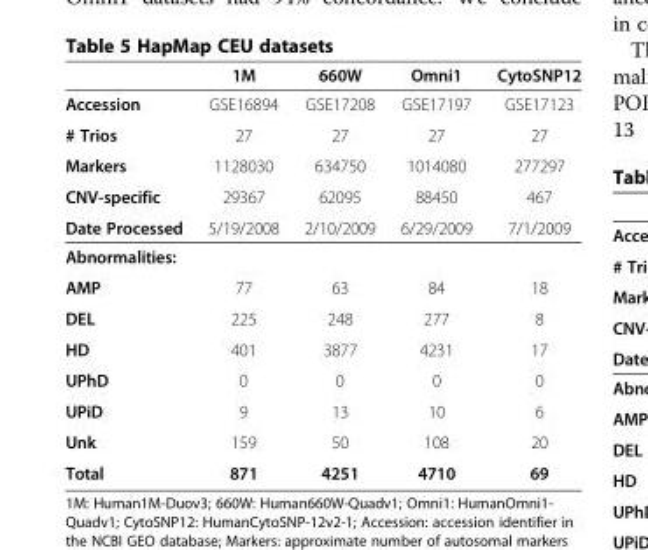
<table><thead><tr><td></td><td>1M</td><td>660W</td><td>Omni1</td><td>CytoSNP12</td></tr></thead><tbody><tr><td>Accession</td><td>GSE16894</td><td>GSE17208</td><td>GSE17197</td><td>GSE17123</td></tr><tr><td># Trios</td><td>27</td><td>27</td><td>27</td><td>27</td></tr><tr><td>Markers</td><td>1128030</td><td>634750</td><td>1014080</td><td>277297</td></tr><tr><td>CNV-specific</td><td>29367</td><td>62095</td><td>88450</td><td>467</td></tr><tr><td>Date Processed</td><td>5/19/2008</td><td>2/10/2009</td><td>6/29/2009</td><td>7/1/2009</td></tr><tr><td colspan="5">Abnormalities:</td></tr><tr><td>AMP</td><td>77</td><td>63</td><td>84</td><td>18</td></tr><tr><td>DEL</td><td>225</td><td>248</td><td>277</td><td>8</td></tr><tr><td>HD</td><td>401</td><td>3877</td><td>4231</td><td>17</td></tr><tr><td>UPhD</td><td>0</td><td>0</td><td>0</td><td>0</td></tr><tr><td>UPiD</td><td>9</td><td>13</td><td>10</td><td>6</td></tr><tr><td>Unk</td><td>159</td><td>50</td><td>108</td><td>20</td></tr><tr><td>Total</td><td>871</td><td>4251</td><td>4710</td><td>69</td></tr></tbody></table>